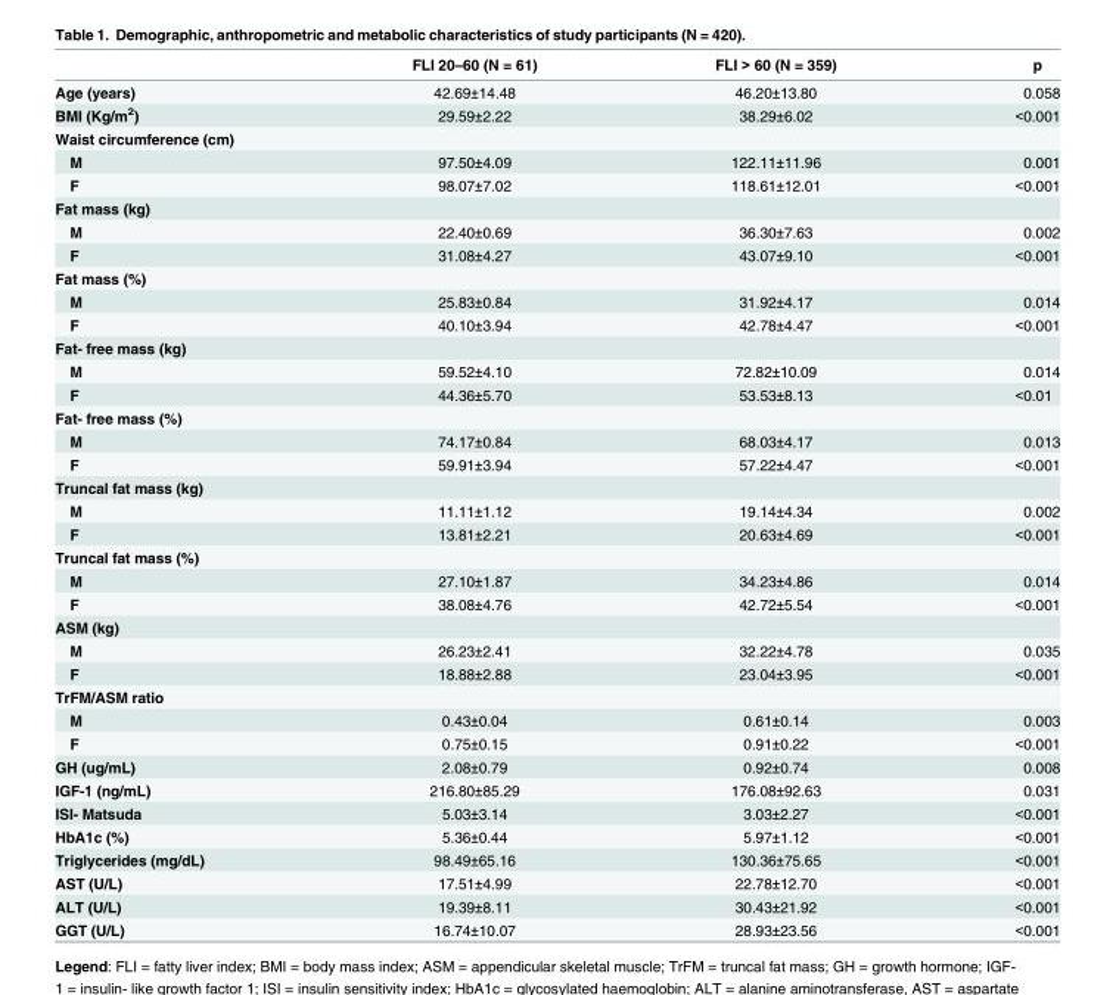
<table><thead><tr><td></td><td>FLI 20–60 (N = 61)</td><td>FLI &gt; 60 (N = 359)</td><td>p</td></tr></thead><tbody><tr><td>Age (years)</td><td>42.69±14.48</td><td>46.20±13.80</td><td>0.058</td></tr><tr><td>BMI (Kg/m<sup>2</sup>)</td><td>29.59±2.22</td><td>38.29±6.02</td><td>&lt;0.001</td></tr><tr><td colspan="4">Waist circumference (cm)</td></tr><tr><td>M</td><td>97.50±4.09</td><td>122.11±11.96</td><td>0.001</td></tr><tr><td>F</td><td>98.07±7.02</td><td>118.61±12.01</td><td>&lt;0.001</td></tr><tr><td colspan="4">Fat mass (kg)</td></tr><tr><td>M</td><td>22.40±0.69</td><td>36.30±7.63</td><td>0.002</td></tr><tr><td>F</td><td>31.08±4.27</td><td>43.07±9.10</td><td>&lt;0.001</td></tr><tr><td colspan="4">Fat mass (%)</td></tr><tr><td>M</td><td>25.83±0.84</td><td>31.92±4.17</td><td>0.014</td></tr><tr><td>F</td><td>40.10±3.94</td><td>42.78±4.47</td><td>&lt;0.001</td></tr><tr><td colspan="4">Fat- free mass (kg)</td></tr><tr><td>M</td><td>59.52±4.10</td><td>72.82±10.09</td><td>0.014</td></tr><tr><td>F</td><td>44.36±5.70</td><td>53.53±8.13</td><td>&lt;0.01</td></tr><tr><td colspan="4">Fat- free mass (%)</td></tr><tr><td>M</td><td>74.17±0.84</td><td>68.03±4.17</td><td>0.013</td></tr><tr><td>F</td><td>59.91±3.94</td><td>57.22±4.47</td><td>&lt;0.001</td></tr><tr><td colspan="4">Truncal fat mass (kg)</td></tr><tr><td>M</td><td>11.11±1.12</td><td>19.14±4.34</td><td>0.002</td></tr><tr><td>F</td><td>13.81±2.21</td><td>20.63±4.69</td><td>&lt;0.001</td></tr><tr><td colspan="4">Truncal fat mass (%)</td></tr><tr><td>M</td><td>27.10±1.87</td><td>34.23±4.86</td><td>0.014</td></tr><tr><td>F</td><td>38.08±4.76</td><td>42.72±5.54</td><td>&lt;0.001</td></tr><tr><td colspan="4">ASM (kg)</td></tr><tr><td>M</td><td>26.23±2.41</td><td>32.22±4.78</td><td>0.035</td></tr><tr><td>F</td><td>18.88±2.88</td><td>23.04±3.95</td><td>&lt;0.001</td></tr><tr><td colspan="4">TrFM/ASM ratio</td></tr><tr><td>M</td><td>0.43±0.04</td><td>0.61±0.14</td><td>0.003</td></tr><tr><td>F</td><td>0.75±0.15</td><td>0.91±0.22</td><td>&lt;0.001</td></tr><tr><td>GH (ug/mL)</td><td>2.08±0.79</td><td>0.92±0.74</td><td>0.008</td></tr><tr><td>IGF-1 (ng/mL)</td><td>216.80±85.29</td><td>176.08±92.63</td><td>0.031</td></tr><tr><td>ISI- Matsuda</td><td>5.03±3.14</td><td>3.03±2.27</td><td>&lt;0.001</td></tr><tr><td>HbA1c (%)</td><td>5.36±0.44</td><td>5.97±1.12</td><td>&lt;0.001</td></tr><tr><td>Triglycerides (mg/dL)</td><td>98.49±65.16</td><td>130.36±75.65</td><td>&lt;0.001</td></tr><tr><td>AST (U/L)</td><td>17.51±4.99</td><td>22.78±12.70</td><td>&lt;0.001</td></tr><tr><td>ALT (U/L)</td><td>19.39±8.11</td><td>30.43±21.92</td><td>&lt;0.001</td></tr><tr><td>GGT (U/L)</td><td>16.74±10.07</td><td>28.93±23.56</td><td>&lt;0.001</td></tr></tbody></table>